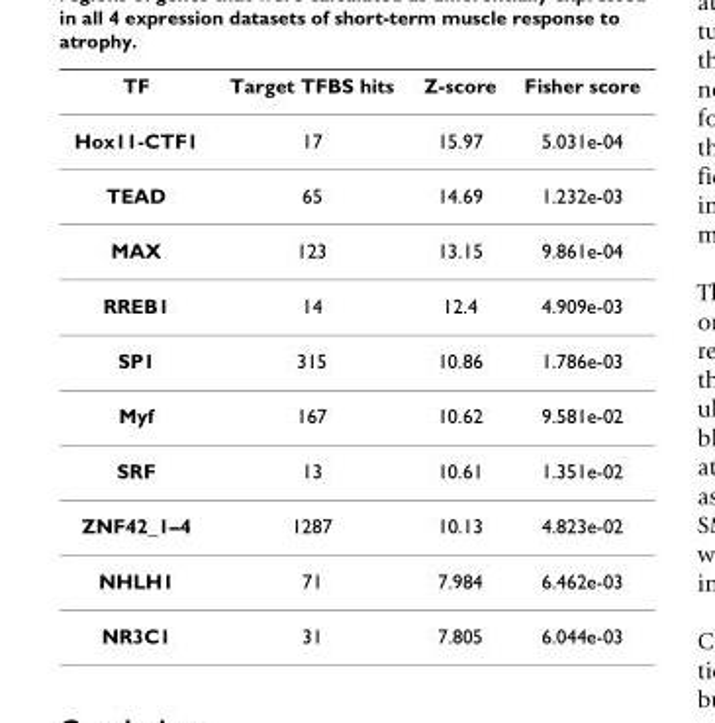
<table><thead><tr><td>TF</td><td>Target TFBS hits</td><td>Z-score</td><td>Fisher score</td></tr></thead><tbody><tr><td>Hox11-CTF1</td><td>17</td><td>15.97</td><td>5.031e-04</td></tr><tr><td>TEAD</td><td>65</td><td>14.69</td><td>1.232e-03</td></tr><tr><td>MAX</td><td>123</td><td>13.15</td><td>9.861e-04</td></tr><tr><td>RREB1</td><td>14</td><td>12.4</td><td>4.909e-03</td></tr><tr><td>SP1</td><td>315</td><td>10.86</td><td>1.786e-03</td></tr><tr><td>Myf</td><td>167</td><td>10.62</td><td>9.581e-02</td></tr><tr><td>SRF</td><td>13</td><td>10.61</td><td>1.351e-02</td></tr><tr><td>ZNF42_1–4</td><td>1287</td><td>10.13</td><td>4.823e-02</td></tr><tr><td>NHLH1</td><td>71</td><td>7.984</td><td>6.462e-03</td></tr><tr><td>NR3C1</td><td>31</td><td>7.805</td><td>6.044e-03</td></tr></tbody></table>